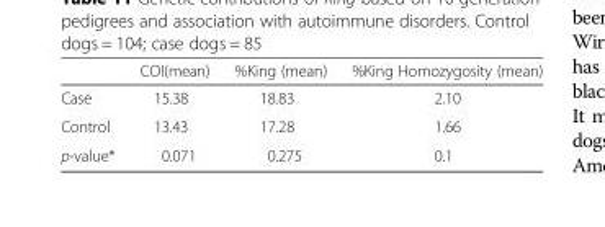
<table><thead><tr><td></td><td>COI(mean)</td><td>%King (mean)</td><td>%King Homozygosity (mean)</td></tr></thead><tbody><tr><td>Case</td><td>15.38</td><td>18.83</td><td>2.10</td></tr><tr><td>Control</td><td>13.43</td><td>17.28</td><td>1.66</td></tr><tr><td>p-value*</td><td>0.071</td><td>0.275</td><td>0.1</td></tr></tbody></table>